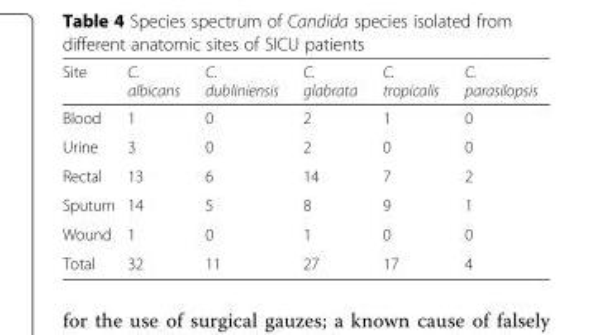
<table><thead><tr><td>Site</td><td>C. albicans</td><td>C. dubliniensis</td><td>C. glabrata</td><td>C. tropicalis</td><td>C. parasilopsis</td></tr></thead><tbody><tr><td>Blood</td><td>1</td><td>0</td><td>2</td><td>1</td><td>0</td></tr><tr><td>Urine</td><td>3</td><td>0</td><td>2</td><td>0</td><td>0</td></tr><tr><td>Rectal</td><td>13</td><td>6</td><td>14</td><td>7</td><td>2</td></tr><tr><td>Sputum</td><td>14</td><td>5</td><td>8</td><td>9</td><td>1</td></tr><tr><td>Wound</td><td>1</td><td>0</td><td>1</td><td>0</td><td>0</td></tr><tr><td>Total</td><td>32</td><td>11</td><td>27</td><td>17</td><td>4</td></tr></tbody></table>